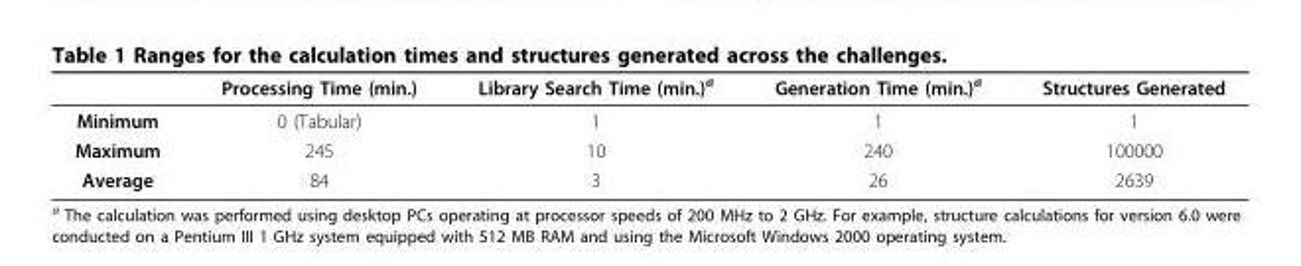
<table><thead><tr><td></td><td>Processing Time (min.)</td><td>Library Search Time (min.)<sup>a</sup></td><td>Generation Time (min.)<sup>a</sup></td><td>Structures Generated</td></tr></thead><tbody><tr><td>Minimum</td><td>0 (Tabular)</td><td>1</td><td>1</td><td>1</td></tr><tr><td>Maximum</td><td>245</td><td>10</td><td>240</td><td>100000</td></tr><tr><td>Average</td><td>84</td><td>3</td><td>26</td><td>2639</td></tr></tbody></table>